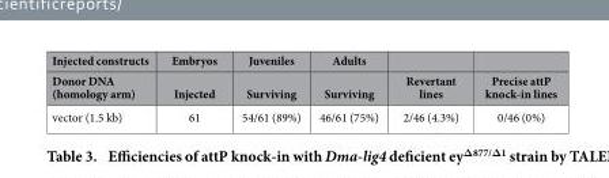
<table><thead><tr><td rowspan="2">Injected constructs Donor DNA (homology arm)</td><td rowspan="2">Embryos Injected</td><td rowspan="2">Juveniles Surviving</td><td rowspan="2">Adults Surviving</td><td rowspan="2">Revertant lines</td><td rowspan="2">Precise attP knock-in lines</td></tr><tr></tr></thead><tbody><tr><td>vector (1.5 kb)</td><td>61</td><td>54/61 (89%)</td><td>46/61 (75%)</td><td>2/46 (4.3%)</td><td>0/46 (0%)</td></tr></tbody></table>